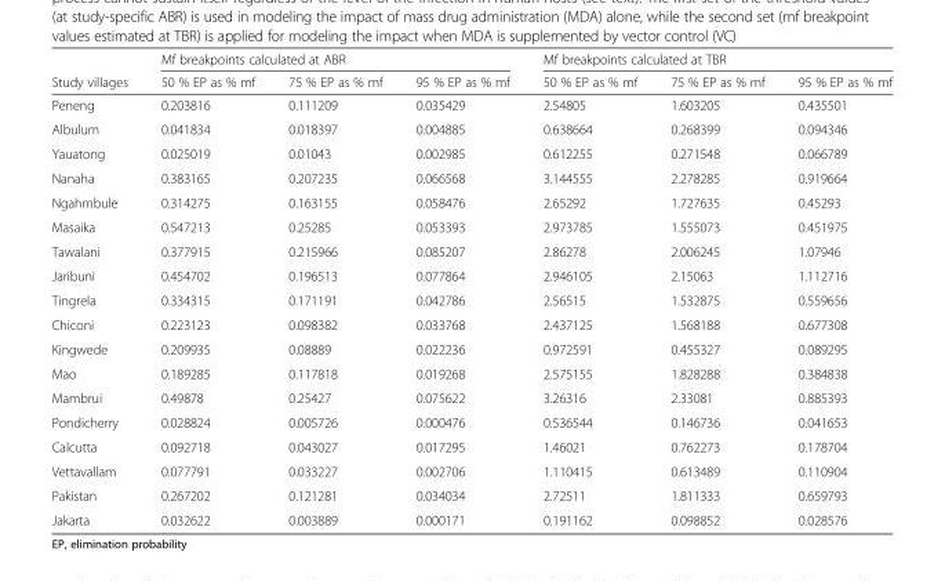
<table><thead><tr><td rowspan="2">Study villages</td><td colspan="3">Mf breakpoints calculated at ABR</td><td colspan="3">Mf breakpoints calculated at TBR</td></tr><tr><td>50 % EP as % mf</td><td>75 % EP as % mf</td><td>95 % EP as % mf</td><td>50 % EP as % mf</td><td>75 % EP as % mf</td><td>95 % EP as % mf</td></tr></thead><tbody><tr><td>Peneng</td><td>0.203816</td><td>0.111209</td><td>0.035429</td><td>2.54805</td><td>1.603205</td><td>0.435501</td></tr><tr><td>Albulum</td><td>0.041834</td><td>0.018397</td><td>0.004885</td><td>0.638664</td><td>0.268399</td><td>0.094346</td></tr><tr><td>Yauatong</td><td>0.025019</td><td>0.01043</td><td>0.002985</td><td>0.612255</td><td>0.271548</td><td>0.066789</td></tr><tr><td>Nanaha</td><td>0.383165</td><td>0.207235</td><td>0.066568</td><td>3.144555</td><td>2.278285</td><td>0.919664</td></tr><tr><td>Ngahmbule</td><td>0.314275</td><td>0.163155</td><td>0.058476</td><td>2.65292</td><td>1.727635</td><td>0.45293</td></tr><tr><td>Masaika</td><td>0.547213</td><td>0.25285</td><td>0.053393</td><td>2.973785</td><td>1.555073</td><td>0.451975</td></tr><tr><td>Tawalani</td><td>0.377915</td><td>0.215966</td><td>0.085207</td><td>2.86278</td><td>2.006245</td><td>1.07946</td></tr><tr><td>Jaribuni</td><td>0.454702</td><td>0.196513</td><td>0.077864</td><td>2.946105</td><td>2.15063</td><td>1.112716</td></tr><tr><td>Tingrela</td><td>0.334315</td><td>0.171191</td><td>0.042786</td><td>2.56515</td><td>1.532875</td><td>0.559656</td></tr><tr><td>Chiconi</td><td>0.223123</td><td>0.098382</td><td>0.033768</td><td>2.437125</td><td>1.568188</td><td>0.677308</td></tr><tr><td>Kingwede</td><td>0.209935</td><td>0.08889</td><td>0.022236</td><td>0.972591</td><td>0.455327</td><td>0.089295</td></tr><tr><td>Mao</td><td>0.189285</td><td>0.117818</td><td>0.019268</td><td>2.575155</td><td>1.828288</td><td>0.384838</td></tr><tr><td>Mambrui</td><td>0.49878</td><td>0.25427</td><td>0.075622</td><td>3.26316</td><td>2.33081</td><td>0.885393</td></tr><tr><td>Pondicherry</td><td>0.028824</td><td>0.005726</td><td>0.000476</td><td>0.536544</td><td>0.146736</td><td>0.041653</td></tr><tr><td>Calcutta</td><td>0.092718</td><td>0.043027</td><td>0.017295</td><td>1.46021</td><td>0.762273</td><td>0.178704</td></tr><tr><td>Vettavallam</td><td>0.077791</td><td>0.033227</td><td>0.002706</td><td>1.110415</td><td>0.613489</td><td>0.110904</td></tr><tr><td>Pakistan</td><td>0.267202</td><td>0.121281</td><td>0.034034</td><td>2.72511</td><td>1.811333</td><td>0.659793</td></tr><tr><td>Jakarta</td><td>0.032622</td><td>0.003889</td><td>0.000171</td><td>0.191162</td><td>0.098852</td><td>0.028576</td></tr></tbody></table>